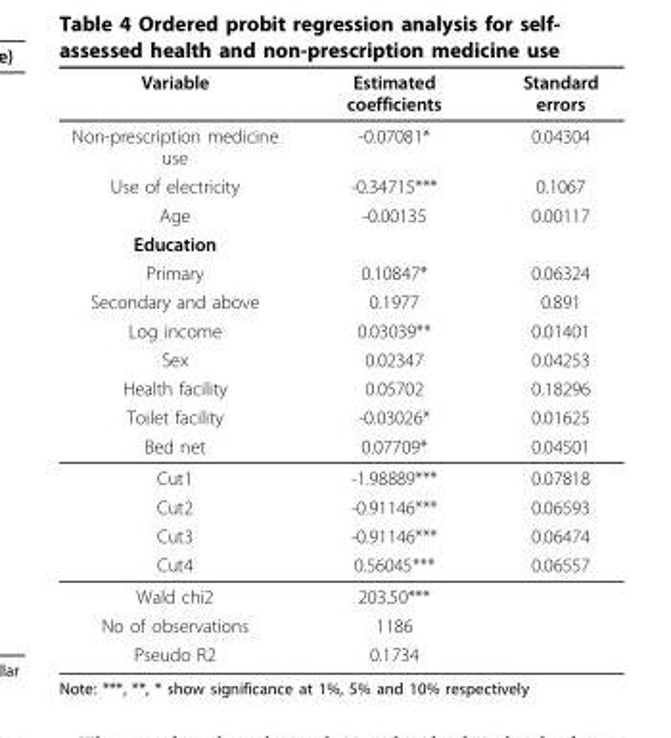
<table><thead><tr><td>Variable</td><td>Estimated coefficients</td><td>Standard errors</td></tr></thead><tbody><tr><td>Non-prescription medicine use</td><td>-0.07081*</td><td>0.04304</td></tr><tr><td>Use of electricity</td><td>-0.34715***</td><td>0.1067</td></tr><tr><td>Age</td><td>-0.00135</td><td>0.00117</td></tr><tr><td colspan="3">Education</td></tr><tr><td>Primary</td><td>0.10847*</td><td>0.06324</td></tr><tr><td>Secondary and above</td><td>0.1977</td><td>0.891</td></tr><tr><td>Log income</td><td>0.03039**</td><td>0.01401</td></tr><tr><td>Sex</td><td>0.02347</td><td>0.04253</td></tr><tr><td>Health facility</td><td>0.05702</td><td>0.18296</td></tr><tr><td>Toilet facility</td><td>-0.03026*</td><td>0.01625</td></tr><tr><td>Bed net</td><td>0.07709*</td><td>0.04501</td></tr><tr><td>Cut1</td><td>-1.98889***</td><td>0.07818</td></tr><tr><td>Cut2</td><td>-0.91146***</td><td>0.06593</td></tr><tr><td>Cut3</td><td>-0.91146***</td><td>0.06474</td></tr><tr><td>Cut4</td><td>0.56045***</td><td>0.06557</td></tr><tr><td>Wald chi2</td><td>203.50***</td><td></td></tr><tr><td>No of observations</td><td>1186</td><td></td></tr><tr><td>Pseudo R2</td><td>0.1734</td><td></td></tr></tbody></table>